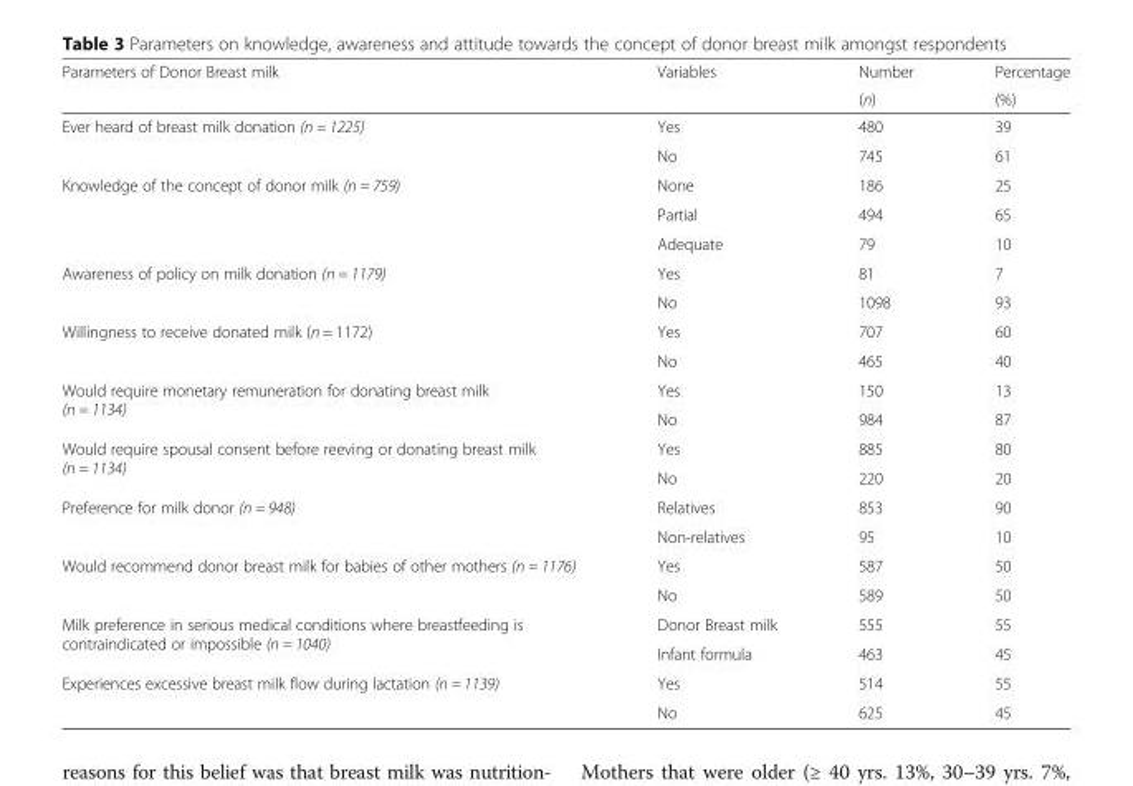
<table><thead><tr><td rowspan="2">Parameters of Donor Breast milk</td><td rowspan="2">Variables</td><td rowspan="2">Number (n)</td><td rowspan="2">Percentage (%)</td></tr><tr></tr></thead><tbody><tr><td rowspan="2">Ever heard of breast milk donation (n = 1225)</td><td>Yes</td><td>480</td><td>39</td></tr><tr><td>No</td><td>745</td><td>61</td></tr><tr><td rowspan="3">Knowledge of the concept of donor milk (n = 759)</td><td>None</td><td>186</td><td>25</td></tr><tr><td>Partial</td><td>494</td><td>65</td></tr><tr><td>Adequate</td><td>79</td><td>10</td></tr><tr><td rowspan="2">Awareness of policy on milk donation (n = 1179)</td><td>Yes</td><td>81</td><td>7</td></tr><tr><td>No</td><td>1098</td><td>93</td></tr><tr><td rowspan="2">Willingness to receive donated milk (n = 1172)</td><td>Yes</td><td>707</td><td>60</td></tr><tr><td>No</td><td>465</td><td>40</td></tr><tr><td rowspan="2">Would require monetary remuneration for donating breast milk (n = 1134)</td><td>Yes</td><td>150</td><td>13</td></tr><tr><td>No</td><td>984</td><td>87</td></tr><tr><td rowspan="2">Would require spousal consent before reeving or donating breast milk (n = 1134)</td><td>Yes</td><td>885</td><td>80</td></tr><tr><td>No</td><td>220</td><td>20</td></tr><tr><td rowspan="2">Preference for milk donor (n = 948)</td><td>Relatives</td><td>853</td><td>90</td></tr><tr><td>Non-relatives</td><td>95</td><td>10</td></tr><tr><td rowspan="2">Would recommend donor breast milk for babies of other mothers (n = 1176)</td><td>Yes</td><td>587</td><td>50</td></tr><tr><td>No</td><td>589</td><td>50</td></tr><tr><td rowspan="2">Milk preference in serious medical conditions where breastfeeding is contraindicated or impossible (n = 1040)</td><td>Donor Breast milk</td><td>555</td><td>55</td></tr><tr><td>Infant formula</td><td>463</td><td>45</td></tr><tr><td rowspan="2">Experiences excessive breast milk flow during lactation (n = 1139)</td><td>Yes</td><td>514</td><td>55</td></tr><tr><td>No</td><td>625</td><td>45</td></tr></tbody></table>